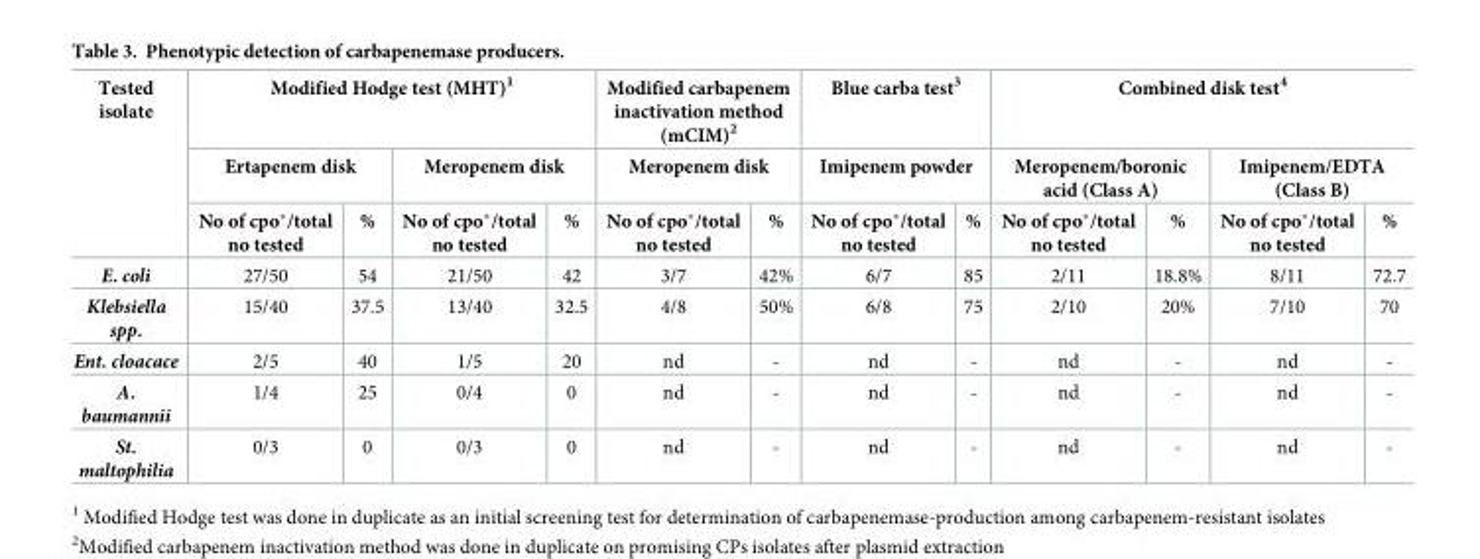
<table><thead><tr><td rowspan="3">Tested isolate</td><td colspan="4">Modified Hodge test (MHT)<sup>1</sup></td><td rowspan="2" colspan="2">Modified carbapenem inactivation method (mCIM)<sup>2</sup> Meropenem disk</td><td rowspan="2" colspan="2">Blue carba test<sup>3</sup> Imipenem powder</td><td colspan="4">Combined disk test<sup>4</sup></td></tr><tr><td colspan="2">Ertapenem disk</td><td colspan="2">Meropenem disk</td><td colspan="2">Meropenem/boronic acid (Class A)</td><td colspan="2">Imipenem/EDTA (Class B)</td></tr><tr><td>No of cpo*/total no tested</td><td>%</td><td>No of cpo*/total no tested</td><td>%</td><td>No of cpo*/total no tested</td><td>%</td><td>No of cpo*/total no tested</td><td>%</td><td>No of cpo*/total no tested</td><td>%</td><td>No of cpo*/total no tested</td><td>%</td></tr></thead><tbody><tr><td>E. coli</td><td>27/50</td><td>54</td><td>21/50</td><td>42</td><td>3/7</td><td>42%</td><td>6/7</td><td>85</td><td>2/11</td><td>18.8%</td><td>8/11</td><td>72.7</td></tr><tr><td>Klebsiella spp.</td><td>15/40</td><td>37.5</td><td>13/40</td><td>32.5</td><td>4/8</td><td>50%</td><td>6/8</td><td>75</td><td>2/10</td><td>20%</td><td>7/10</td><td>70</td></tr><tr><td>Ent. cloacace</td><td>2/5</td><td>40</td><td>1/5</td><td>20</td><td>nd</td><td>-</td><td>nd</td><td>-</td><td>nd</td><td>-</td><td>nd</td><td>-</td></tr><tr><td>A. baumannii</td><td>1/4</td><td>25</td><td>0/4</td><td>0</td><td>nd</td><td>-</td><td>nd</td><td>-</td><td>nd</td><td>-</td><td>nd</td><td>-</td></tr><tr><td>St. maltophilia</td><td>0/3</td><td>0</td><td>0/3</td><td>0</td><td>nd</td><td>-</td><td>nd</td><td>-</td><td>nd</td><td>-</td><td>nd</td><td>-</td></tr></tbody></table>